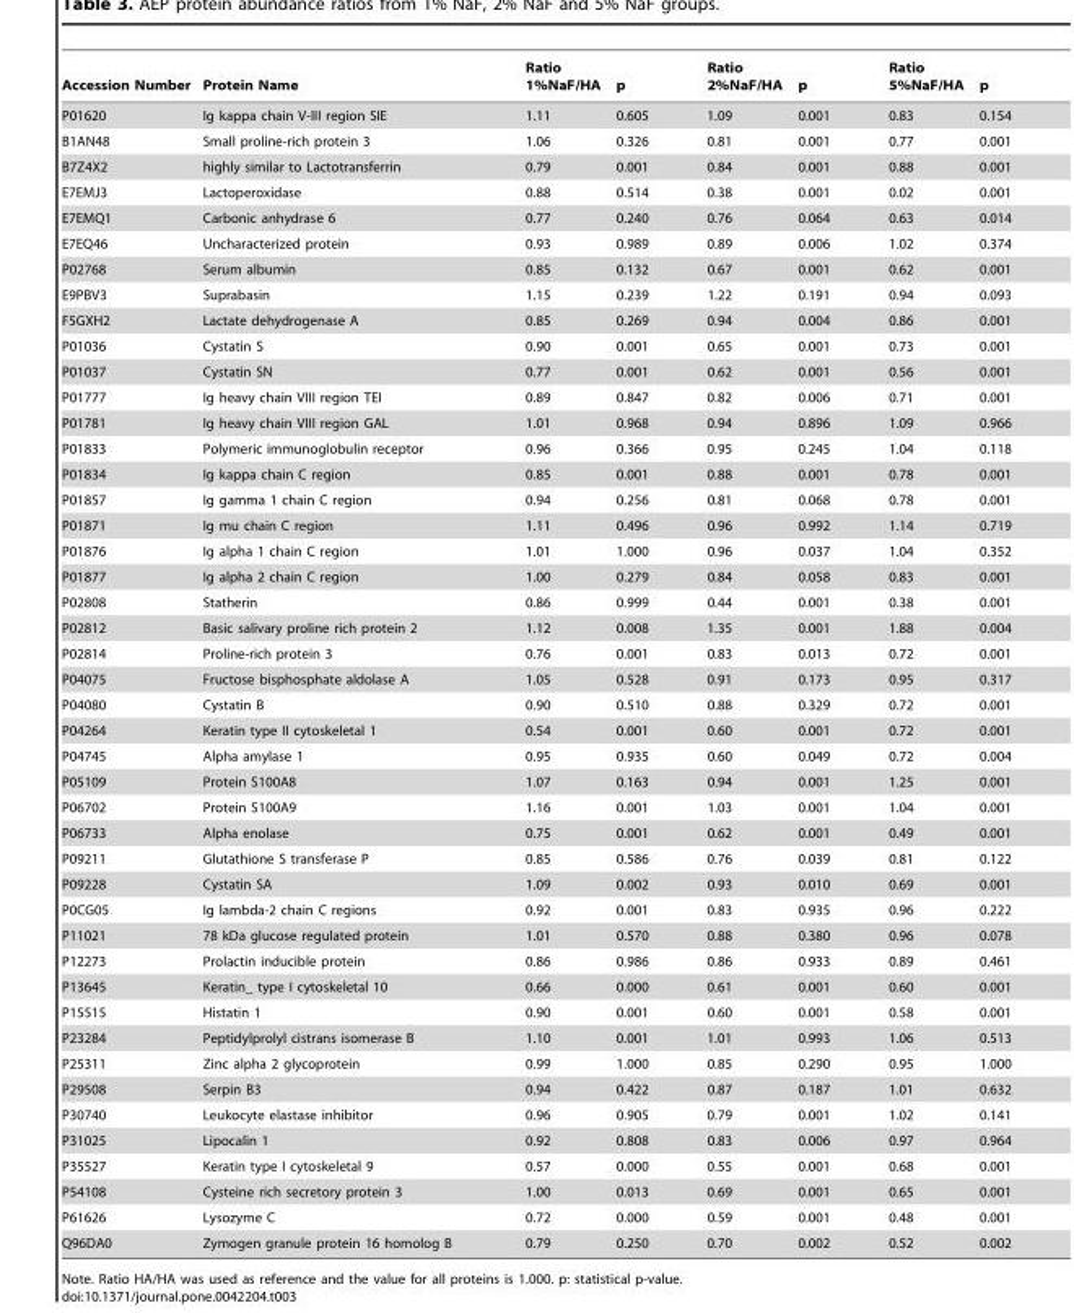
<table><thead><tr><td>Accession Number</td><td>Protein Name</td><td>Ratio 1%NaF/HA</td><td>p</td><td>Ratio 2%NaF/HA</td><td>p</td><td>Ratio 5%NaF/HA</td><td>p</td></tr></thead><tbody><tr><td>P01620</td><td>Ig kappa chain V-III region SIE</td><td>1.11</td><td>0.605</td><td>1.09</td><td>0.001</td><td>0.83</td><td>0.154</td></tr><tr><td>B1AN48</td><td>Small proline-rich protein 3</td><td>1.06</td><td>0.326</td><td>0.81</td><td>0.001</td><td>0.77</td><td>0.001</td></tr><tr><td>B7Z4X2</td><td>highly similar to Lactotransferrin</td><td>0.79</td><td>0.001</td><td>0.84</td><td>0.001</td><td>0.88</td><td>0.001</td></tr><tr><td>E7EMJ3</td><td>Lactoperoxidase</td><td>0.88</td><td>0.514</td><td>0.38</td><td>0.001</td><td>0.02</td><td>0.001</td></tr><tr><td>E7EMQ1</td><td>Carbonic anhydrase 6</td><td>0.77</td><td>0.240</td><td>0.76</td><td>0.064</td><td>0.63</td><td>0.014</td></tr><tr><td>E7EQ46</td><td>Uncharacterized protein</td><td>0.93</td><td>0.989</td><td>0.89</td><td>0.006</td><td>1.02</td><td>0.374</td></tr><tr><td>P02768</td><td>Serum albumin</td><td>0.85</td><td>0.132</td><td>0.67</td><td>0.001</td><td>0.62</td><td>0.001</td></tr><tr><td>E9PBV3</td><td>Suprabasin</td><td>1.15</td><td>0.239</td><td>1.22</td><td>0.191</td><td>0.94</td><td>0.093</td></tr><tr><td>F5GXH2</td><td>Lactate dehydrogenase A</td><td>0.85</td><td>0.269</td><td>0.94</td><td>0.004</td><td>0.86</td><td>0.001</td></tr><tr><td>P01036</td><td>Cystatin S</td><td>0.90</td><td>0.001</td><td>0.65</td><td>0.001</td><td>0.73</td><td>0.001</td></tr><tr><td>P01037</td><td>Cystatin SN</td><td>0.77</td><td>0.001</td><td>0.62</td><td>0.001</td><td>0.56</td><td>0.001</td></tr><tr><td>P01777</td><td>Ig heavy chain VIII region TEI</td><td>0.89</td><td>0.847</td><td>0.82</td><td>0.006</td><td>0.71</td><td>0.001</td></tr><tr><td>P01781</td><td>Ig heavy chain VIII region GAL</td><td>1.01</td><td>0.968</td><td>0.94</td><td>0.896</td><td>1.09</td><td>0.966</td></tr><tr><td>P01833</td><td>Polymeric immunoglobulin receptor</td><td>0.96</td><td>0.366</td><td>0.95</td><td>0.245</td><td>1.04</td><td>0.118</td></tr><tr><td>P01834</td><td>Ig kappa chain C region</td><td>0.85</td><td>0.001</td><td>0.88</td><td>0.001</td><td>0.78</td><td>0.001</td></tr><tr><td>P01857</td><td>Ig gamma 1 chain C region</td><td>0.94</td><td>0.256</td><td>0.81</td><td>0.068</td><td>0.78</td><td>0.001</td></tr><tr><td>P01871</td><td>Ig mu chain C region</td><td>1.11</td><td>0.496</td><td>0.96</td><td>0.992</td><td>1.14</td><td>0.719</td></tr><tr><td>P01876</td><td>Ig alpha 1 chain C region</td><td>1.01</td><td>1.000</td><td>0.96</td><td>0.037</td><td>1.04</td><td>0.352</td></tr><tr><td>P01877</td><td>Ig alpha 2 chain C region</td><td>1.00</td><td>0.279</td><td>0.84</td><td>0.058</td><td>0.83</td><td>0.001</td></tr><tr><td>P02808</td><td>Statherin</td><td>0.86</td><td>0.999</td><td>0.44</td><td>0.001</td><td>0.38</td><td>0.001</td></tr><tr><td>P02812</td><td>Basic salivary proline rich protein 2</td><td>1.12</td><td>0.008</td><td>1.35</td><td>0.001</td><td>1.88</td><td>0.004</td></tr><tr><td>P02814</td><td>Proline-rich protein 3</td><td>0.76</td><td>0.001</td><td>0.83</td><td>0.013</td><td>0.72</td><td>0.001</td></tr><tr><td>P04075</td><td>Fructose bisphosphate aldolase A</td><td>1.05</td><td>0.528</td><td>0.91</td><td>0.173</td><td>0.95</td><td>0.317</td></tr><tr><td>P04080</td><td>Cystatin B</td><td>0.90</td><td>0.510</td><td>0.88</td><td>0.329</td><td>0.72</td><td>0.001</td></tr><tr><td>P04264</td><td>Keratin type II cytoskeletal 1</td><td>0.54</td><td>0.001</td><td>0.60</td><td>0.001</td><td>0.72</td><td>0.001</td></tr><tr><td>P04745</td><td>Alpha amylase 1</td><td>0.95</td><td>0.935</td><td>0.60</td><td>0.049</td><td>0.72</td><td>0.004</td></tr><tr><td>P05109</td><td>Protein S100A8</td><td>1.07</td><td>0.163</td><td>0.94</td><td>0.001</td><td>1.25</td><td>0.001</td></tr><tr><td>P06702</td><td>Protein S100A9</td><td>1.16</td><td>0.001</td><td>1.03</td><td>0.001</td><td>1.04</td><td>0.001</td></tr><tr><td>P06733</td><td>Alpha enolase</td><td>0.75</td><td>0.001</td><td>0.62</td><td>0.001</td><td>0.49</td><td>0.001</td></tr><tr><td>P09211</td><td>Glutathione S transferase P</td><td>0.85</td><td>0.586</td><td>0.76</td><td>0.039</td><td>0.81</td><td>0.122</td></tr><tr><td>P09228</td><td>Cystatin SA</td><td>1.09</td><td>0.002</td><td>0.93</td><td>0.010</td><td>0.69</td><td>0.001</td></tr><tr><td>P0CG05</td><td>Ig lambda-2 chain C regions</td><td>0.92</td><td>0.001</td><td>0.83</td><td>0.935</td><td>0.96</td><td>0.222</td></tr><tr><td>P11021</td><td>78 kDa glucose regulated protein</td><td>1.01</td><td>0.570</td><td>0.88</td><td>0.380</td><td>0.96</td><td>0.078</td></tr><tr><td>P12273</td><td>Prolactin inducible protein</td><td>0.86</td><td>0.986</td><td>0.86</td><td>0.933</td><td>0.89</td><td>0.461</td></tr><tr><td>P13645</td><td>Keratin_ type I cytoskeletal 10</td><td>0.66</td><td>0.000</td><td>0.61</td><td>0.001</td><td>0.60</td><td>0.001</td></tr><tr><td>P15515</td><td>Histatin 1</td><td>0.90</td><td>0.001</td><td>0.60</td><td>0.001</td><td>0.58</td><td>0.001</td></tr><tr><td>P23284</td><td>Peptidylprolyl cistrans isomerase B</td><td>1.10</td><td>0.001</td><td>1.01</td><td>0.993</td><td>1.06</td><td>0.513</td></tr><tr><td>P25311</td><td>Zinc alpha 2 glycoprotein</td><td>0.99</td><td>1.000</td><td>0.85</td><td>0.290</td><td>0.95</td><td>1.000</td></tr><tr><td>P29508</td><td>Serpin B3</td><td>0.94</td><td>0.422</td><td>0.87</td><td>0.187</td><td>1.01</td><td>0.632</td></tr><tr><td>P30740</td><td>Leukocyte elastase inhibitor</td><td>0.96</td><td>0.905</td><td>0.79</td><td>0.001</td><td>1.02</td><td>0.141</td></tr><tr><td>P31025</td><td>Lipocalin 1</td><td>0.92</td><td>0.808</td><td>0.83</td><td>0.006</td><td>0.97</td><td>0.964</td></tr><tr><td>P35527</td><td>Keratin type I cytoskeletal 9</td><td>0.57</td><td>0.000</td><td>0.55</td><td>0.001</td><td>0.68</td><td>0.001</td></tr><tr><td>P54108</td><td>Cysteine rich secretory protein 3</td><td>1.00</td><td>0.013</td><td>0.69</td><td>0.001</td><td>0.65</td><td>0.001</td></tr><tr><td>P61626</td><td>Lysozyme C</td><td>0.72</td><td>0.000</td><td>0.59</td><td>0.001</td><td>0.48</td><td>0.001</td></tr><tr><td>Q96DA0</td><td>Zymogen granule protein 16 homolog B</td><td>0.79</td><td>0.250</td><td>0.70</td><td>0.002</td><td>0.52</td><td>0.002</td></tr></tbody></table>